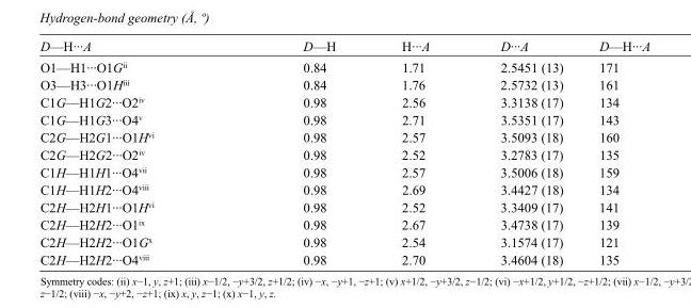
<table><tbody><tr><td>D—H···A</td><td>D—H</td><td>H···A</td><td>D···A</td><td>D—H···A</td></tr><tr><td>O1—H1···O1G<sup>ii</sup></td><td>0.84</td><td>1.71</td><td>2.5451 (13)</td><td>171</td></tr><tr><td>O3—H3···O1H<sup>iii</sup></td><td>0.84</td><td>1.76</td><td>2.5732 (13)</td><td>161</td></tr><tr><td>C1G—H1G2···O2<sup>iv</sup></td><td>0.98</td><td>2.56</td><td>3.3138 (17)</td><td>134</td></tr><tr><td>C1G—H1G3···O4<sup>v</sup></td><td>0.98</td><td>2.71</td><td>3.5351 (17)</td><td>143</td></tr><tr><td>C2G—H2G1···O1H<sup>vi</sup></td><td>0.98</td><td>2.57</td><td>3.5093 (18)</td><td>160</td></tr><tr><td>C2G—H2G2···O2<sup>iv</sup></td><td>0.98</td><td>2.52</td><td>3.2783 (17)</td><td>135</td></tr><tr><td>C1H—H1H1···O4<sup>vii</sup></td><td>0.98</td><td>2.57</td><td>3.5006 (18)</td><td>159</td></tr><tr><td>C1H—H1H2···O4<sup>viii</sup></td><td>0.98</td><td>2.69</td><td>3.4427 (18)</td><td>134</td></tr><tr><td>C2H—H2H1···O1H<sup>vi</sup></td><td>0.98</td><td>2.52</td><td>3.3409 (17)</td><td>141</td></tr><tr><td>C2H—H2H2···O1<sup>ix</sup></td><td>0.98</td><td>2.67</td><td>3.4738 (17)</td><td>139</td></tr><tr><td>C2H—H2H2···O1G<sup>x</sup></td><td>0.98</td><td>2.54</td><td>3.1574 (17)</td><td>121</td></tr><tr><td>C2H—H2H2···O4<sup>viii</sup></td><td>0.98</td><td>2.70</td><td>3.4604 (18)</td><td>135</td></tr></tbody></table>